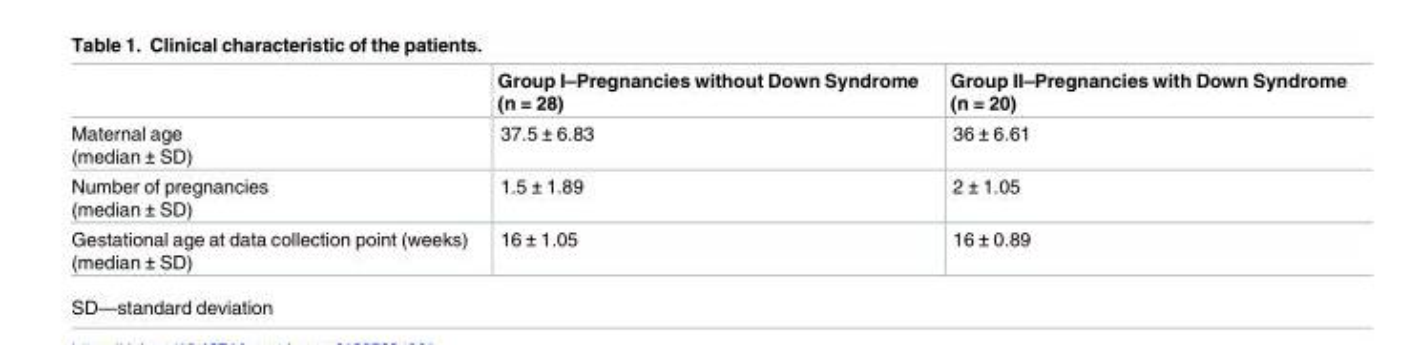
<table><thead><tr><td></td><td>Group I–Pregnancies without Down Syndrome (n = 28)</td><td>Group II–Pregnancies with Down Syndrome (n = 20)</td></tr></thead><tbody><tr><td>Maternal age (median ± SD)</td><td>37.5 ± 6.83</td><td>36 ± 6.61</td></tr><tr><td>Number of pregnancies (median ± SD)</td><td>1.5 ± 1.89</td><td>2 ± 1.05</td></tr><tr><td>Gestational age at data collection point (weeks) (median ± SD)</td><td>16 ± 1.05</td><td>16 ± 0.89</td></tr></tbody></table>